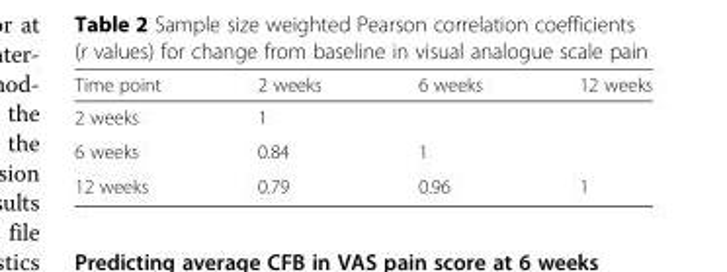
<table><thead><tr><td>Time point</td><td>2 weeks</td><td>6 weeks</td><td>12 weeks</td></tr></thead><tbody><tr><td>2 weeks</td><td>1</td><td></td><td></td></tr><tr><td>6 weeks</td><td>0.84</td><td>1</td><td></td></tr><tr><td>12 weeks</td><td>0.79</td><td>0.96</td><td>1</td></tr></tbody></table>